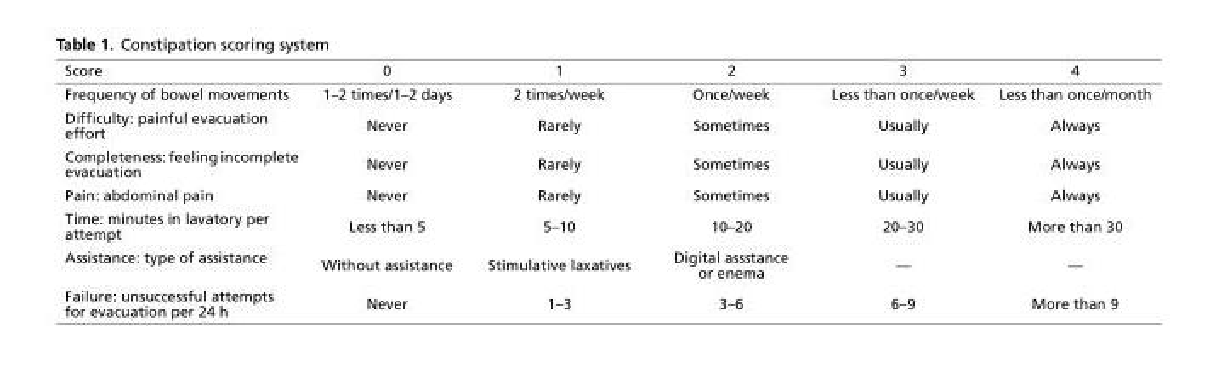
<table><thead><tr><td>Score</td><td>0</td><td>1</td><td>2</td><td>3</td><td>4</td></tr></thead><tbody><tr><td>Frequency of bowel movements</td><td>1–2 times/1–2 days</td><td>2 times/week</td><td>Once/week</td><td>Less than once/week</td><td>Less than once/month</td></tr><tr><td>Difficulty: painful evacuation effort</td><td>Never</td><td>Rarely</td><td>Sometimes</td><td>Usually</td><td>Always</td></tr><tr><td>Completeness: feeling incomplete evacuation</td><td>Never</td><td>Rarely</td><td>Sometimes</td><td>Usually</td><td>Always</td></tr><tr><td>Pain: abdominal pain</td><td>Never</td><td>Rarely</td><td>Sometimes</td><td>Usually</td><td>Always</td></tr><tr><td>Time: minutes in lavatory per attempt</td><td>Less than 5</td><td>5–10</td><td>10–20</td><td>20–30</td><td>More than 30</td></tr><tr><td>Assistance: type of assistance</td><td>Without assistance</td><td>Stimulative laxatives</td><td>Digital assstance or enema</td><td>—</td><td>—</td></tr><tr><td>Failure: unsuccessful attempts for evacuation per 24 h</td><td>Never</td><td>1–3</td><td>3–6</td><td>6–9</td><td>More than 9</td></tr></tbody></table>